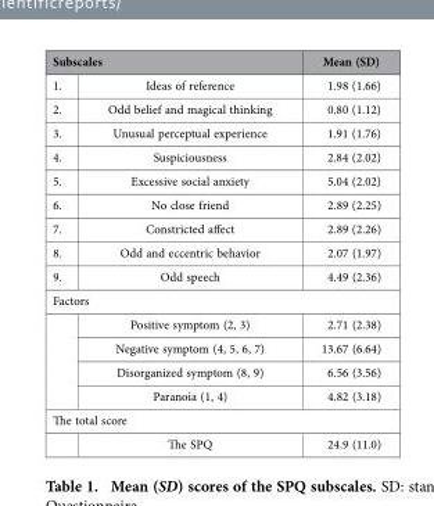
<table><thead><tr><td colspan="2">Subscales</td><td rowspan="2">Mean (SD) 1.98 (1.66)</td></tr><tr><td>1.</td><td>Ideas of reference</td></tr></thead><tbody><tr><td>2.</td><td>Odd belief and magical thinking</td><td>0.80 (1.12)</td></tr><tr><td>3.</td><td>Unusual perceptual experience</td><td>1.91 (1.76)</td></tr><tr><td>4.</td><td>Suspiciousness</td><td>2.84 (2.02)</td></tr><tr><td>5.</td><td>Excessive social anxiety</td><td>5.04 (2.02)</td></tr><tr><td>6.</td><td>No close friend</td><td>2.89 (2.25)</td></tr><tr><td>7.</td><td>Constricted affect</td><td>2.89 (2.26)</td></tr><tr><td>8.</td><td>Odd and eccentric behavior</td><td>2.07 (1.97)</td></tr><tr><td>9.</td><td>Odd speech</td><td>4.49 (2.36)</td></tr><tr><td colspan="3">Factors</td></tr><tr><td rowspan="4"></td><td>Positive symptom (2, 3)</td><td>2.71 (2.38)</td></tr><tr><td>Negative symptom (4, 5, 6, 7)</td><td>13.67 (6.64)</td></tr><tr><td>Disorganized symptom (8, 9)</td><td>6.56 (3.56)</td></tr><tr><td>Paranoia (1, 4)</td><td>4.82 (3.18)</td></tr><tr><td colspan="3">The total score</td></tr><tr><td></td><td>The SPQ</td><td>24.9 (11.0)</td></tr></tbody></table>